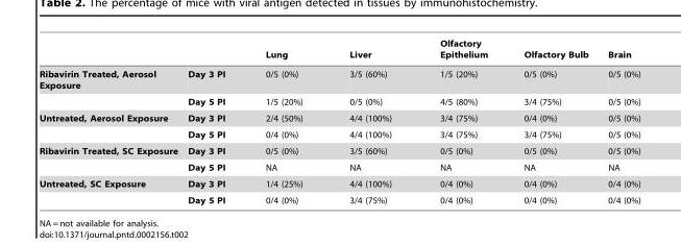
<table><thead><tr><td></td><td></td><td>Lung</td><td>Liver</td><td>Olfactory Epithelium</td><td>Olfactory Bulb</td><td>Brain</td></tr></thead><tbody><tr><td rowspan="2">Ribavirin Treated, Aerosol Exposure</td><td>Day 3 PI</td><td>0/5 (0%)</td><td>3/5 (60%)</td><td>1/5 (20%)</td><td>0/5 (0%)</td><td>0/5 (0%)</td></tr><tr><td>Day 5 PI</td><td>1/5 (20%)</td><td>0/5 (0%)</td><td>4/5 (80%)</td><td>3/4 (75%)</td><td>0/5 (0%)</td></tr><tr><td rowspan="2">Untreated, Aerosol Exposure</td><td>Day 3 PI</td><td>2/4 (50%)</td><td>4/4 (100%)</td><td>3/4 (75%)</td><td>0/4 (0%)</td><td>0/5 (0%)</td></tr><tr><td>Day 5 PI</td><td>0/4 (0%)</td><td>4/4 (100%)</td><td>3/4 (75%)</td><td>3/4 (75%)</td><td>0/5 (0%)</td></tr><tr><td rowspan="2">Ribavirin Treated, SC Exposure</td><td>Day 3 PI</td><td>0/5 (0%)</td><td>3/5 (60%)</td><td>0/5 (0%)</td><td>0/5 (0%)</td><td>0/5 (0%)</td></tr><tr><td>Day 5 PI</td><td>NA</td><td>NA</td><td>NA</td><td>NA</td><td>NA</td></tr><tr><td rowspan="2">Untreated, SC Exposure</td><td>Day 3 PI</td><td>1/4 (25%)</td><td>4/4 (100%)</td><td>0/4 (0%)</td><td>0/4 (0%)</td><td>0/4 (0%)</td></tr><tr><td>Day 5 PI</td><td>0/4 (0%)</td><td>3/4 (75%)</td><td>0/4 (0%)</td><td>0/4 (0%)</td><td>0/4 (0%)</td></tr></tbody></table>